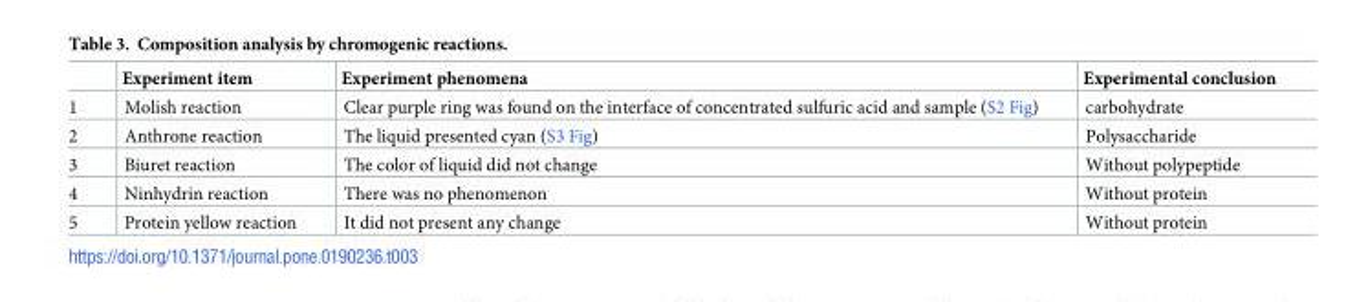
<table><thead><tr><td></td><td>Experiment item</td><td>Experiment phenomena</td><td>Experimental conclusion</td></tr></thead><tbody><tr><td>1</td><td>Molish reaction</td><td>Clear purple ring was found on the interface of concentrated sulfuric acid and sample (S2 Fig)</td><td>carbohydrate</td></tr><tr><td>2</td><td>Anthrone reaction</td><td>The liquid presented cyan (S3 Fig)</td><td>Polysaccharide</td></tr><tr><td>3</td><td>Biuret reaction</td><td>The color of liquid did not change</td><td>Without polypeptide</td></tr><tr><td>4</td><td>Ninhydrin reaction</td><td>There was no phenomenon</td><td>Without protein</td></tr><tr><td>5</td><td>Protein yellow reaction</td><td>It did not present any change</td><td>Without protein</td></tr></tbody></table>